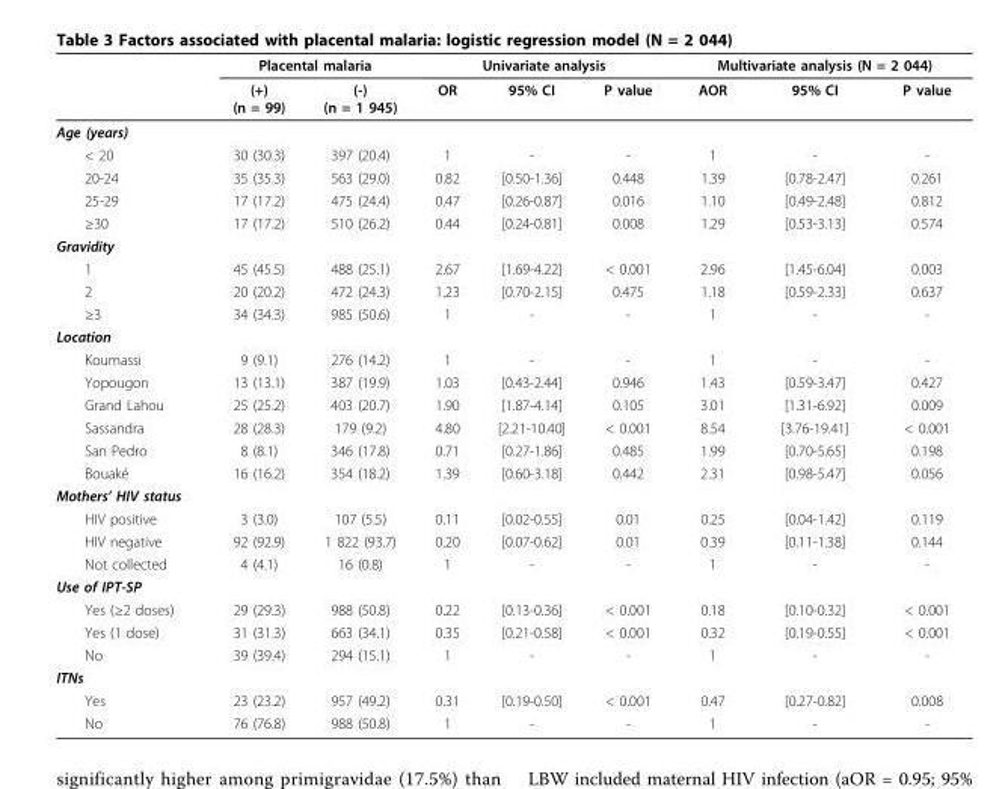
<table><thead><tr><td rowspan="2"></td><td colspan="2">Placental malaria</td><td colspan="3">Univariate analysis</td><td colspan="3">Multivariate analysis (N = 2 044)</td></tr><tr><td>(+) (n = 99)</td><td>(-) (n = 1 945)</td><td>OR</td><td>95% CI</td><td>P value</td><td>AOR</td><td>95% CI</td><td>P value</td></tr></thead><tbody><tr><td colspan="9">Age (years)</td></tr><tr><td>&lt; 20</td><td>30 (30.3)</td><td>397 (20.4)</td><td>1</td><td>-</td><td>-</td><td>1</td><td>-</td><td>-</td></tr><tr><td>20-24</td><td>35 (35.3)</td><td>563 (29.0)</td><td>0.82</td><td>[0.50-1.36]</td><td>0.448</td><td>1.39</td><td>[0.78-2.47]</td><td>0.261</td></tr><tr><td>25-29</td><td>17 (17.2)</td><td>475 (24.4)</td><td>0.47</td><td>[0.26-0.87]</td><td>0.016</td><td>1.10</td><td>[0.49-2.48]</td><td>0.812</td></tr><tr><td>≥30</td><td>17 (17.2)</td><td>510 (26.2)</td><td>0.44</td><td>[0.24-0.81]</td><td>0.008</td><td>1.29</td><td>[0.53-3.13]</td><td>0.574</td></tr><tr><td colspan="9">Gravidity</td></tr><tr><td>1</td><td>45 (45.5)</td><td>488 (25.1)</td><td>2.67</td><td>[1.69-4.22]</td><td>&lt; 0.001</td><td>2.96</td><td>[1.45-6.04]</td><td>0.003</td></tr><tr><td>2</td><td>20 (20.2)</td><td>472 (24.3)</td><td>1.23</td><td>[0.70-2.15]</td><td>0.475</td><td>1.18</td><td>[0.59-2.33]</td><td>0.637</td></tr><tr><td>≥3</td><td>34 (34.3)</td><td>985 (50.6)</td><td>1</td><td>-</td><td>-</td><td>1</td><td>-</td><td>-</td></tr><tr><td colspan="9">Location</td></tr><tr><td>Koumassi</td><td>9 (9.1)</td><td>276 (14.2)</td><td>1</td><td>-</td><td>-</td><td>1</td><td>-</td><td>-</td></tr><tr><td>Yopougon</td><td>13 (13.1)</td><td>387 (19.9)</td><td>1.03</td><td>[0.43-2.44]</td><td>0.946</td><td>1.43</td><td>[0.59-3.47]</td><td>0.427</td></tr><tr><td>Grand Lahou</td><td>25 (25.2)</td><td>403 (20.7)</td><td>1.90</td><td>[1.87-4.14]</td><td>0.105</td><td>3.01</td><td>[1.31-6.92]</td><td>0.009</td></tr><tr><td>Sassandra</td><td>28 (28.3)</td><td>179 (9.2)</td><td>4.80</td><td>[2.21-10.40]</td><td>&lt; 0.001</td><td>8.54</td><td>[3.76-19.41]</td><td>&lt; 0.001</td></tr><tr><td>San Pedro</td><td>8 (8.1)</td><td>346 (17.8)</td><td>0.71</td><td>[0.27-1.86]</td><td>0.485</td><td>1.99</td><td>[0.70-5.65]</td><td>0.198</td></tr><tr><td>Bouaké</td><td>16 (16.2)</td><td>354 (18.2)</td><td>1.39</td><td>[0.60-3.18]</td><td>0.442</td><td>2.31</td><td>[0.98-5.47]</td><td>0.056</td></tr><tr><td colspan="9">Mothers’ HIV status</td></tr><tr><td>HIV positive</td><td>3 (3.0)</td><td>107 (5.5)</td><td>0.11</td><td>[0.02-0.55]</td><td>0.01</td><td>0.25</td><td>[0.04-1.42]</td><td>0.119</td></tr><tr><td>HIV negative</td><td>92 (92.9)</td><td>1 822 (93.7)</td><td>0.20</td><td>[0.07-0.62]</td><td>0.01</td><td>0.39</td><td>[0.11-1.38]</td><td>0.144</td></tr><tr><td>Not collected</td><td>4 (4.1)</td><td>16 (0.8)</td><td>1</td><td>-</td><td>-</td><td>1</td><td>-</td><td>-</td></tr><tr><td colspan="9">Use of IPT-SP</td></tr><tr><td>Yes (≥2 doses)</td><td>29 (29.3)</td><td>988 (50.8)</td><td>0.22</td><td>[0.13-0.36]</td><td>&lt; 0.001</td><td>0.18</td><td>[0.10-0.32]</td><td>&lt; 0.001</td></tr><tr><td>Yes (1 dose)</td><td>31 (31.3)</td><td>663 (34.1)</td><td>0.35</td><td>[0.21-0.58]</td><td>&lt; 0.001</td><td>0.32</td><td>[0.19-0.55]</td><td>&lt; 0.001</td></tr><tr><td>No</td><td>39 (39.4)</td><td>294 (15.1)</td><td>1</td><td>-</td><td>-</td><td>1</td><td>-</td><td>-</td></tr><tr><td colspan="9">ITNs</td></tr><tr><td>Yes</td><td>23 (23.2)</td><td>957 (49.2)</td><td>0.31</td><td>[0.19-0.50]</td><td>&lt; 0.001</td><td>0.47</td><td>[0.27-0.82]</td><td>0.008</td></tr><tr><td>No</td><td>76 (76.8)</td><td>988 (50.8)</td><td>1</td><td>-</td><td>-</td><td>1</td><td>-</td><td>-</td></tr></tbody></table>